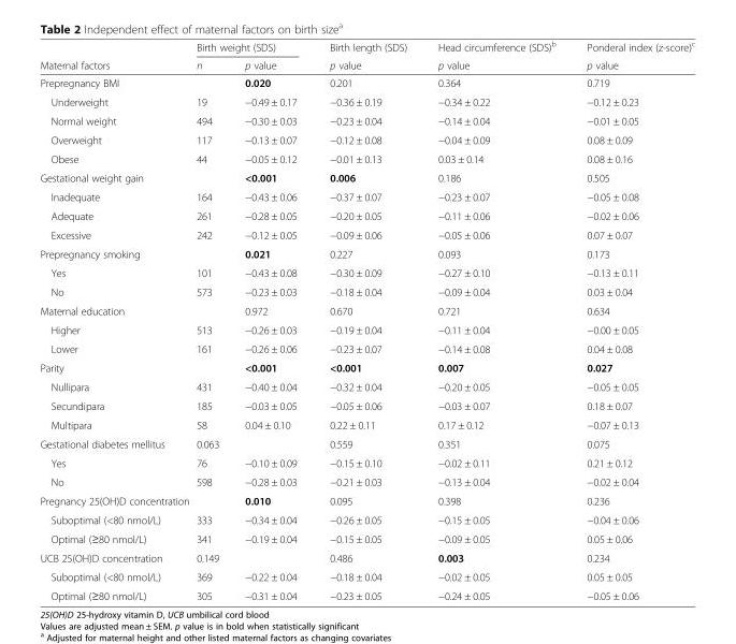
<table><thead><tr><td rowspan="2">Maternal factors</td><td colspan="2">Birth weight (SDS)</td><td rowspan="2">Birth length (SDS) p value</td><td rowspan="2">Head circumference (SDS)<sup>b</sup> p value</td><td rowspan="2">Ponderal index (z-score)<sup>c</sup> p value</td></tr><tr><td>n</td><td>p value</td></tr></thead><tbody><tr><td colspan="2">Prepregnancy BMI</td><td>0.020</td><td>0.201</td><td>0.364</td><td>0.719</td></tr><tr><td>Underweight</td><td>19</td><td>−0.49 ± 0.17</td><td>−0.36 ± 0.19</td><td>−0.34 ± 0.22</td><td>−0.12 ± 0.23</td></tr><tr><td>Normal weight</td><td>494</td><td>−0.30 ± 0.03</td><td>−0.23 ± 0.04</td><td>−0.14 ± 0.04</td><td>−0.01 ± 0.05</td></tr><tr><td>Overweight</td><td>117</td><td>−0.13 ± 0.07</td><td>−0.12 ± 0.08</td><td>−0.04 ± 0.09</td><td>0.08 ± 0.09</td></tr><tr><td>Obese</td><td>44</td><td>−0.05 ± 0.12</td><td>−0.01 ± 0.13</td><td>0.03 ± 0.14</td><td>0.08 ± 0.16</td></tr><tr><td colspan="2">Gestational weight gain</td><td>&lt;0.001</td><td>0.006</td><td>0.186</td><td>0.505</td></tr><tr><td>Inadequate</td><td>164</td><td>−0.43 ± 0.06</td><td>−0.37 ± 0.07</td><td>−0.23 ± 0.07</td><td>−0.05 ± 0.08</td></tr><tr><td>Adequate</td><td>261</td><td>−0.28 ± 0.05</td><td>−0.20 ± 0.05</td><td>−0.11 ± 0.06</td><td>−0.02 ± 0.06</td></tr><tr><td>Excessive</td><td>242</td><td>−0.12 ± 0.05</td><td>−0.09 ± 0.06</td><td>−0.05 ± 0.06</td><td>0.07 ± 0.07</td></tr><tr><td colspan="2">Prepregnancy smoking</td><td>0.021</td><td>0.227</td><td>0.093</td><td>0.173</td></tr><tr><td>Yes</td><td>101</td><td>−0.43 ± 0.08</td><td>−0.30 ± 0.09</td><td>−0.27 ± 0.10</td><td>−0.13 ± 0.11</td></tr><tr><td>No</td><td>573</td><td>−0.23 ± 0.03</td><td>−0.18 ± 0.04</td><td>−0.09 ± 0.04</td><td>0.03 ± 0.04</td></tr><tr><td colspan="2">Maternal education</td><td>0.972</td><td>0.670</td><td>0.721</td><td>0.634</td></tr><tr><td>Higher</td><td>513</td><td>−0.26 ± 0.03</td><td>−0.19 ± 0.04</td><td>−0.11 ± 0.04</td><td>−0.00 ± 0.05</td></tr><tr><td>Lower</td><td>161</td><td>−0.26 ± 0.06</td><td>−0.23 ± 0.07</td><td>−0.14 ± 0.08</td><td>0.04 ± 0.08</td></tr><tr><td colspan="2">Parity</td><td>&lt;0.001</td><td>&lt;0.001</td><td>0.007</td><td>0.027</td></tr><tr><td>Nullipara</td><td>431</td><td>−0.40 ± 0.04</td><td>−0.32 ± 0.04</td><td>−0.20 ± 0.05</td><td>−0.05 ± 0.05</td></tr><tr><td>Secundipara</td><td>185</td><td>−0.03 ± 0.05</td><td>−0.05 ± 0.06</td><td>−0.03 ± 0.07</td><td>0.18 ± 0.07</td></tr><tr><td>Multipara</td><td>58</td><td>0.04 ± 0.10</td><td>0.22 ± 0.11</td><td>0.17 ± 0.12</td><td>−0.07 ± 0.13</td></tr><tr><td>Gestational diabetes mellitus</td><td colspan="2">0.063</td><td>0.559</td><td>0.351</td><td>0.075</td></tr><tr><td>Yes</td><td>76</td><td>−0.10 ± 0.09</td><td>−0.15 ± 0.10</td><td>−0.02 ± 0.11</td><td>0.21 ± 0.12</td></tr><tr><td>No</td><td>598</td><td>−0.28 ± 0.03</td><td>−0.21 ± 0.03</td><td>−0.13 ± 0.04</td><td>−0.02 ± 0.04</td></tr><tr><td colspan="2">Pregnancy 25(OH)D concentration</td><td>0.010</td><td>0.095</td><td>0.398</td><td>0.236</td></tr><tr><td>Suboptimal (&lt;80 nmol/L)</td><td>333</td><td>−0.34 ± 0.04</td><td>−0.26 ± 0.05</td><td>−0.15 ± 0.05</td><td>−0.04 ± 0.06</td></tr><tr><td>Optimal (≥80 nmol/L)</td><td>341</td><td>−0.19 ± 0.04</td><td>−0.15 ± 0.05</td><td>−0.09 ± 0.05</td><td>0.05 ± 0.06</td></tr><tr><td>UCB 25(OH)D concentration</td><td colspan="2">0.149</td><td>0.486</td><td>0.003</td><td>0.234</td></tr><tr><td>Suboptimal (&lt;80 nmol/L)</td><td>369</td><td>−0.22 ± 0.04</td><td>−0.18 ± 0.04</td><td>−0.02 ± 0.05</td><td>0.05 ± 0.05</td></tr><tr><td>Optimal (≥80 nmol/L)</td><td>305</td><td>−0.31 ± 0.04</td><td>−0.23 ± 0.05</td><td>−0.24 ± 0.05</td><td>−0.05 ± 0.06</td></tr></tbody></table>